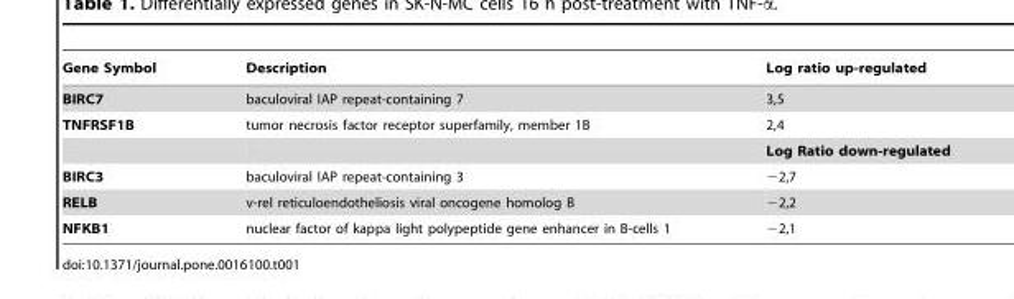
<table><thead><tr><td>Gene Symbol</td><td>Description</td><td>Log ratio up-regulated</td></tr></thead><tbody><tr><td>BIRC7</td><td>baculoviral IAP repeat-containing 7</td><td>3,5</td></tr><tr><td rowspan="2">TNFRSF1B</td><td>tumor necrosis factor receptor superfamily, member 1B</td><td>2,4</td></tr><tr><td></td><td>Log Ratio down-regulated</td></tr><tr><td>BIRC3</td><td>baculoviral IAP repeat-containing 3</td><td>−2,7</td></tr><tr><td>RELB</td><td>v-rel reticuloendotheliosis viral oncogene homolog B</td><td>−2,2</td></tr><tr><td>NFKB1</td><td>nuclear factor of kappa light polypeptide gene enhancer in B-cells 1</td><td>−2,1</td></tr></tbody></table>